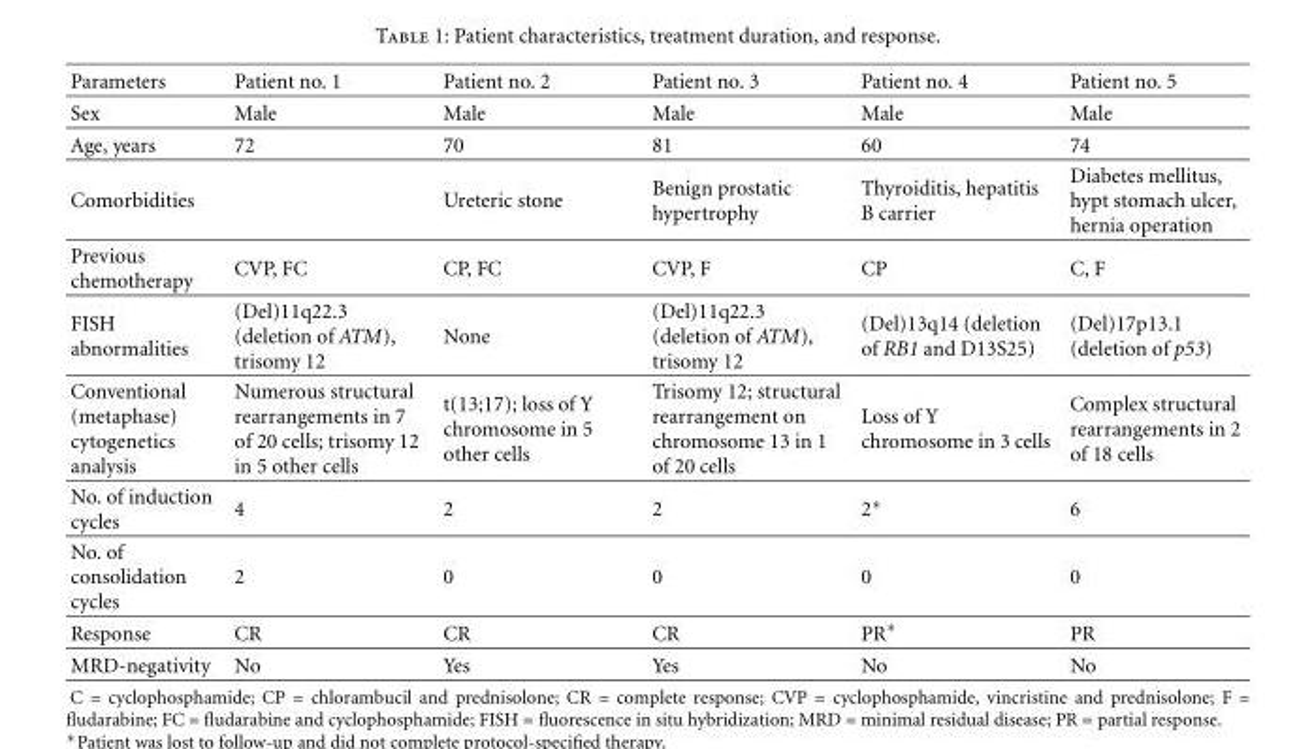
<table><thead><tr><td>Parameters</td><td>Patient no. 1</td><td>Patient no. 2</td><td>Patient no. 3</td><td>Patient no. 4</td><td>Patient no. 5</td></tr></thead><tbody><tr><td>Sex</td><td>Male</td><td>Male</td><td>Male</td><td>Male</td><td>Male</td></tr><tr><td>Age, years</td><td>72</td><td>70</td><td>81</td><td>60</td><td>74</td></tr><tr><td>Comorbidities</td><td></td><td>Ureteric stone</td><td>Benign prostatic hypertrophy</td><td>Thyroiditis, hepatitis B carrier</td><td>Diabetes mellitus, hypt stomach ulcer, hernia operation</td></tr><tr><td>Previous chemotherapy</td><td>CVP, FC</td><td>CP, FC</td><td>CVP, F</td><td>CP</td><td>C, F</td></tr><tr><td>FISH abnormalities</td><td>(Del)11q22.3 (deletion of ATM), trisomy 12</td><td>None</td><td>(Del)11q22.3 (deletion of ATM), trisomy 12</td><td>(Del)13q14 (deletion of RB1 and D13S25)</td><td>(Del)17p13.1 (deletion of p53)</td></tr><tr><td>Conventional (metaphase) cytogenetics analysis</td><td>Numerous structural rearrangements in 7 of 20 cells; trisomy 12 in 5 other cells</td><td>t(13;17); loss of Y chromosome in 5 other cells</td><td>Trisomy 12; structural rearrangement on chromosome 13 in 1 of 20 cells</td><td>Loss of Y chromosome in 3 cells</td><td>Complex structural rearrangements in 2 of 18 cells</td></tr><tr><td>No. of induction cycles</td><td>4</td><td>2</td><td>2</td><td>2∗</td><td>6</td></tr><tr><td>No. of consolidation cycles</td><td>2</td><td>0</td><td>0</td><td>0</td><td>0</td></tr><tr><td>Response</td><td>CR</td><td>CR</td><td>CR</td><td>PR∗</td><td>PR</td></tr><tr><td>MRD-negativity</td><td>No</td><td>Yes</td><td>Yes</td><td>No</td><td>No</td></tr></tbody></table>